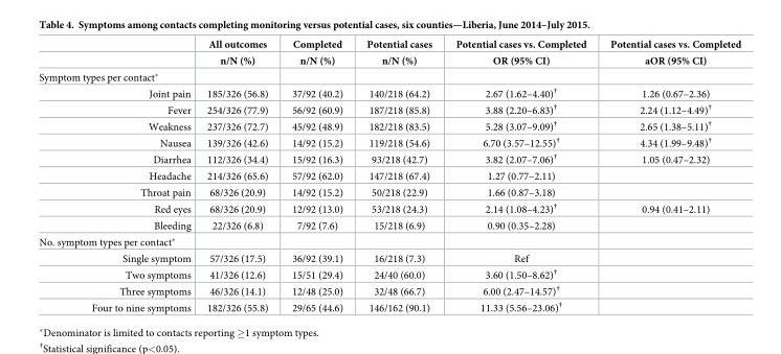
<table><thead><tr><td rowspan="2"></td><td rowspan="2">All outcomes n/N (%)</td><td rowspan="2">Completed n/N (%)</td><td rowspan="2">Potential cases n/N (%)</td><td rowspan="2">Potential cases vs. Completed OR (95% CI)</td><td rowspan="2">Potential cases vs. Completed aOR (95% CI)</td></tr><tr></tr></thead><tbody><tr><td colspan="6">Symptom types per contact*</td></tr><tr><td>Joint pain</td><td>185/326 (56.8)</td><td>37/92 (40.2)</td><td>140/218 (64.2)</td><td>2.67 (1.62–4.40)<sup>†</sup></td><td>1.26 (0.67–2.36)</td></tr><tr><td>Fever</td><td>254/326 (77.9)</td><td>56/92 (60.9)</td><td>187/218 (85.8)</td><td>3.88 (2.20–6.83)<sup>†</sup></td><td>2.24 (1.12–4.49)<sup>†</sup></td></tr><tr><td>Weakness</td><td>237/326 (72.7)</td><td>45/92 (48.9)</td><td>182/218 (83.5)</td><td>5.28 (3.07–9.09)<sup>†</sup></td><td>2.65 (1.38–5.11)<sup>†</sup></td></tr><tr><td>Nausea</td><td>139/326 (42.6)</td><td>14/92 (15.2)</td><td>119/218 (54.6)</td><td>6.70 (3.57–12.55)<sup>†</sup></td><td>4.34 (1.99–9.48)<sup>†</sup></td></tr><tr><td>Diarrhea</td><td>112/326 (34.4)</td><td>15/92 (16.3)</td><td>93/218 (42.7)</td><td>3.82 (2.07–7.06)<sup>†</sup></td><td>1.05 (0.47–2.32)</td></tr><tr><td>Headache</td><td>214/326 (65.6)</td><td>57/92 (62.0)</td><td>147/218 (67.4)</td><td>1.27 (0.77–2.11)</td><td></td></tr><tr><td>Throat pain</td><td>68/326 (20.9)</td><td>14/92 (15.2)</td><td>50/218 (22.9)</td><td>1.66 (0.87–3.18)</td><td></td></tr><tr><td>Red eyes</td><td>68/326 (20.9)</td><td>12/92 (13.0)</td><td>53/218 (24.3)</td><td>2.14 (1.08–4.23)<sup>†</sup></td><td>0.94 (0.41–2.11)</td></tr><tr><td>Bleeding</td><td>22/326 (6.8)</td><td>7/92 (7.6)</td><td>15/218 (6.9)</td><td>0.90 (0.35–2.28)</td><td></td></tr><tr><td colspan="6">No. symptom types per contact*</td></tr><tr><td>Single symptom</td><td>57/326 (17.5)</td><td>36/92 (39.1)</td><td>16/218 (7.3)</td><td>Ref</td><td></td></tr><tr><td>Two symptoms</td><td>41/326 (12.6)</td><td>15/51 (29.4)</td><td>24/40 (60.0)</td><td>3.60 (1.50–8.62)<sup>†</sup></td><td></td></tr><tr><td>Three symptoms</td><td>46/326 (14.1)</td><td>12/48 (25.0)</td><td>32/48 (66.7)</td><td>6.00 (2.47–14.57)<sup>†</sup></td><td></td></tr><tr><td>Four to nine symptoms</td><td>182/326 (55.8)</td><td>29/65 (44.6)</td><td>146/162 (90.1)</td><td>11.33 (5.56–23.06)<sup>†</sup></td><td></td></tr></tbody></table>